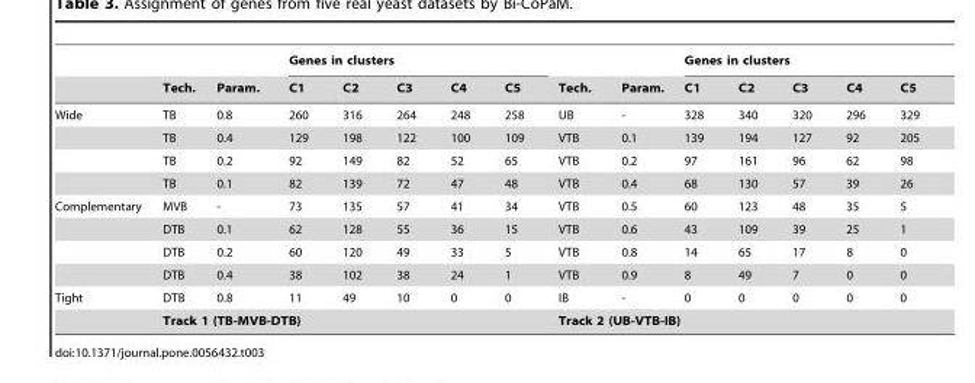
<table><thead><tr><td rowspan="2"></td><td rowspan="2">Tech.</td><td rowspan="2">Param.</td><td colspan="5">Genes in clusters</td><td rowspan="2">Tech.</td><td rowspan="2">Param.</td><td colspan="5">Genes in clusters</td></tr><tr><td>C1</td><td>C2</td><td>C3</td><td>C4</td><td>C5</td><td>C1</td><td>C2</td><td>C3</td><td>C4</td><td>C5</td></tr></thead><tbody><tr><td rowspan="4">Wide</td><td>TB</td><td>0.8</td><td>260</td><td>316</td><td>264</td><td>248</td><td>258</td><td>UB</td><td>-</td><td>328</td><td>340</td><td>320</td><td>296</td><td>329</td></tr><tr><td>TB</td><td>0.4</td><td>129</td><td>198</td><td>122</td><td>100</td><td>109</td><td>VTB</td><td>0.1</td><td>139</td><td>194</td><td>127</td><td>92</td><td>205</td></tr><tr><td>TB</td><td>0.2</td><td>92</td><td>149</td><td>82</td><td>52</td><td>65</td><td>VTB</td><td>0.2</td><td>97</td><td>161</td><td>96</td><td>62</td><td>98</td></tr><tr><td>TB</td><td>0.1</td><td>82</td><td>139</td><td>72</td><td>47</td><td>48</td><td>VTB</td><td>0.4</td><td>68</td><td>130</td><td>57</td><td>39</td><td>26</td></tr><tr><td rowspan="4">Complementary</td><td>MVB</td><td>-</td><td>73</td><td>135</td><td>57</td><td>41</td><td>34</td><td>VTB</td><td>0.5</td><td>60</td><td>123</td><td>48</td><td>35</td><td>5</td></tr><tr><td>DTB</td><td>0.1</td><td>62</td><td>128</td><td>55</td><td>36</td><td>15</td><td>VTB</td><td>0.6</td><td>43</td><td>109</td><td>39</td><td>25</td><td>1</td></tr><tr><td>DTB</td><td>0.2</td><td>60</td><td>120</td><td>49</td><td>33</td><td>5</td><td>VTB</td><td>0.8</td><td>14</td><td>65</td><td>17</td><td>8</td><td>0</td></tr><tr><td>DTB</td><td>0.4</td><td>38</td><td>102</td><td>38</td><td>24</td><td>1</td><td>VTB</td><td>0.9</td><td>8</td><td>49</td><td>7</td><td>0</td><td>0</td></tr><tr><td rowspan="2">Tight</td><td>DTB</td><td>0.8</td><td>11</td><td>49</td><td>10</td><td>0</td><td>0</td><td>IB</td><td>-</td><td>0</td><td>0</td><td>0</td><td>0</td><td>0</td></tr><tr><td colspan="7">Track 1 (TB-MVB-DTB)</td><td colspan="7">Track 2 (UB-VTB-IB)</td></tr></tbody></table>